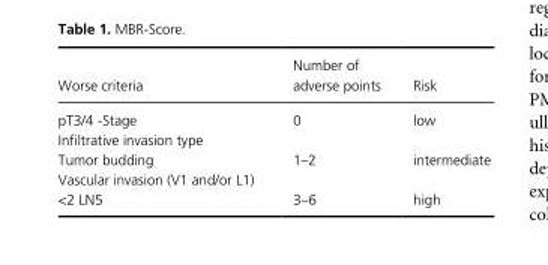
<table><thead><tr><td>Worse criteria</td><td>Number of adverse points</td><td>Risk</td></tr></thead><tbody><tr><td>pT3/4 - Stage</td><td>0</td><td>low</td></tr><tr><td colspan="3">Infiltrative invasion type</td></tr><tr><td>Tumor budding</td><td>1–2</td><td>intermediate</td></tr><tr><td colspan="3">Vascular invasion (V1 and/or L1)</td></tr><tr><td>&lt;2 LN5</td><td>3–6</td><td>high</td></tr></tbody></table>